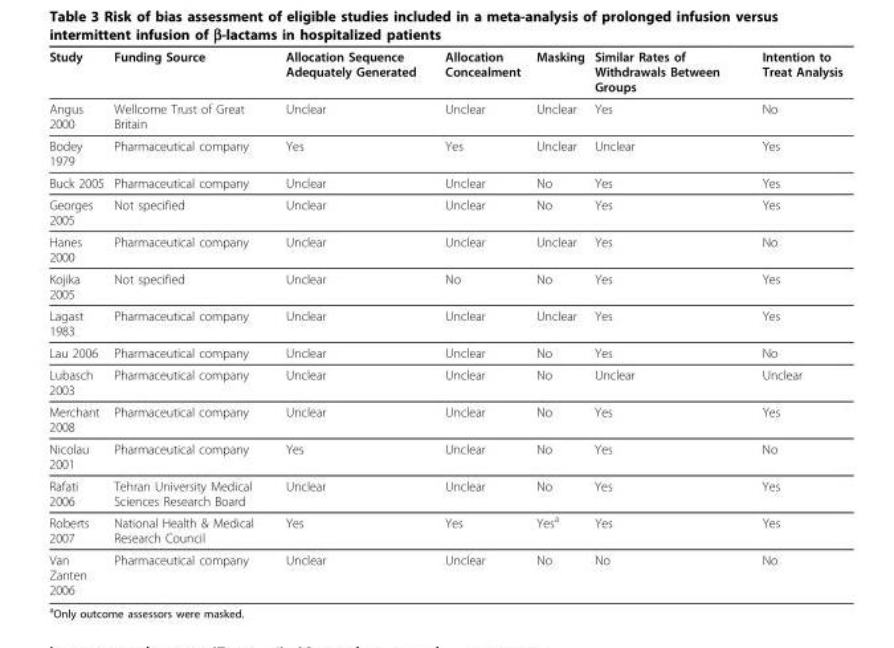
<table><thead><tr><td>Study</td><td>Funding Source</td><td>Allocation Sequence Adequately Generated</td><td>Allocation Concealment</td><td>Masking</td><td>Similar Rates of Withdrawals Between Groups</td><td>Intention to Treat Analysis</td></tr></thead><tbody><tr><td>Angus 2000</td><td>Wellcome Trust of Great Britain</td><td>Unclear</td><td>Unclear</td><td>Unclear</td><td>Yes</td><td>No</td></tr><tr><td>Bodey 1979</td><td>Pharmaceutical company</td><td>Yes</td><td>Yes</td><td>Unclear</td><td>Unclear</td><td>Yes</td></tr><tr><td>Buck 2005</td><td>Pharmaceutical company</td><td>Unclear</td><td>Unclear</td><td>No</td><td>Yes</td><td>Yes</td></tr><tr><td>Georges 2005</td><td>Not specified</td><td>Unclear</td><td>Unclear</td><td>No</td><td>Yes</td><td>Yes</td></tr><tr><td>Hanes 2000</td><td>Pharmaceutical company</td><td>Unclear</td><td>Unclear</td><td>Unclear</td><td>Yes</td><td>No</td></tr><tr><td>Kojika 2005</td><td>Not specified</td><td>Unclear</td><td>No</td><td>No</td><td>Yes</td><td>Yes</td></tr><tr><td>Lagast 1983</td><td>Pharmaceutical company</td><td>Unclear</td><td>Unclear</td><td>Unclear</td><td>Yes</td><td>Yes</td></tr><tr><td>Lau 2006</td><td>Pharmaceutical company</td><td>Unclear</td><td>Unclear</td><td>No</td><td>Yes</td><td>No</td></tr><tr><td>Lubasch 2003</td><td>Pharmaceutical company</td><td>Unclear</td><td>Unclear</td><td>No</td><td>Unclear</td><td>Unclear</td></tr><tr><td>Merchant 2008</td><td>Pharmaceutical company</td><td>Unclear</td><td>Unclear</td><td>No</td><td>Yes</td><td>Yes</td></tr><tr><td>Nicolau 2001</td><td>Pharmaceutical company</td><td>Yes</td><td>Unclear</td><td>No</td><td>Yes</td><td>No</td></tr><tr><td>Rafati 2006</td><td>Tehran University Medical Sciences Research Board</td><td>Unclear</td><td>Unclear</td><td>No</td><td>Yes</td><td>Yes</td></tr><tr><td>Roberts 2007</td><td>National Health &amp; Medical Research Council</td><td>Yes</td><td>Yes</td><td>Yes<sup>a</sup></td><td>Yes</td><td>Yes</td></tr><tr><td>Van Zanten 2006</td><td>Pharmaceutical company</td><td>Unclear</td><td>Unclear</td><td>No</td><td>No</td><td>No</td></tr></tbody></table>